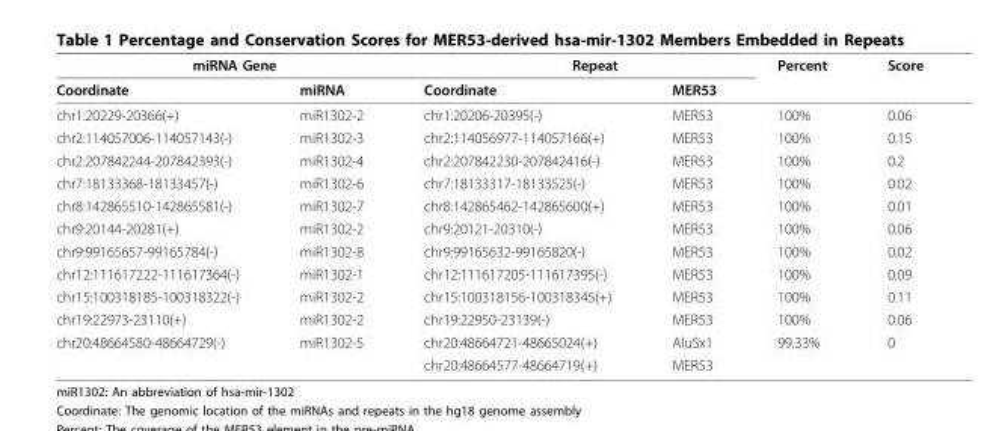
<table><thead><tr><td colspan="2">miRNA Gene</td><td colspan="2">Repeat</td><td rowspan="2">Percent</td><td rowspan="2">Score</td></tr><tr><td>Coordinate</td><td>miRNA</td><td>Coordinate</td><td>MER53</td></tr></thead><tbody><tr><td>chr1:20229-20366(+)</td><td>miR1302-2</td><td>chr1:20206-20395(-)</td><td>MER53</td><td>100%</td><td>0.06</td></tr><tr><td>chr2:114057006-114057143(-)</td><td>miR1302-3</td><td>chr2:114056977-114057166(+)</td><td>MER53</td><td>100%</td><td>0.15</td></tr><tr><td>chr2:207842244-207842393(-)</td><td>miR1302-4</td><td>chr2:207842230-207842416(-)</td><td>MER53</td><td>100%</td><td>0.2</td></tr><tr><td>chr7:18133368-18133457(-)</td><td>miR1302-6</td><td>chr7:18133317-18133525(-)</td><td>MER53</td><td>100%</td><td>0.02</td></tr><tr><td>chr8:142865510-142865581(-)</td><td>miR1302-7</td><td>chr8:142865462-142865600(+)</td><td>MER53</td><td>100%</td><td>0.01</td></tr><tr><td>chr9:20144-20281(+)</td><td>miR1302-2</td><td>chr9:20121-20310(-)</td><td>MER53</td><td>100%</td><td>0.06</td></tr><tr><td>chr9:99165657-99165784(-)</td><td>miR1302-8</td><td>chr9:99165632-99165820(-)</td><td>MER53</td><td>100%</td><td>0.02</td></tr><tr><td>chr12:111617222-111617364(-)</td><td>miR1302-1</td><td>chr12:111617205-111617395(-)</td><td>MER53</td><td>100%</td><td>0.09</td></tr><tr><td>chr15:100318185-100318322(-)</td><td>miR1302-2</td><td>chr15:100318156-100318345(+)</td><td>MER53</td><td>100%</td><td>0.11</td></tr><tr><td>chr19:22973-23110(+)</td><td>miR1302-2</td><td>chr19:22950-23139(-)</td><td>MER53</td><td>100%</td><td>0.06</td></tr><tr><td rowspan="2">chr20:48664580-48664729(-)</td><td>miR1302-5</td><td>chr20:48664721-48665024(+)</td><td>AluSx1</td><td>99.33%</td><td>0</td></tr><tr><td></td><td>chr20:48664577-48664719(+)</td><td>MER53</td><td></td><td></td></tr></tbody></table>